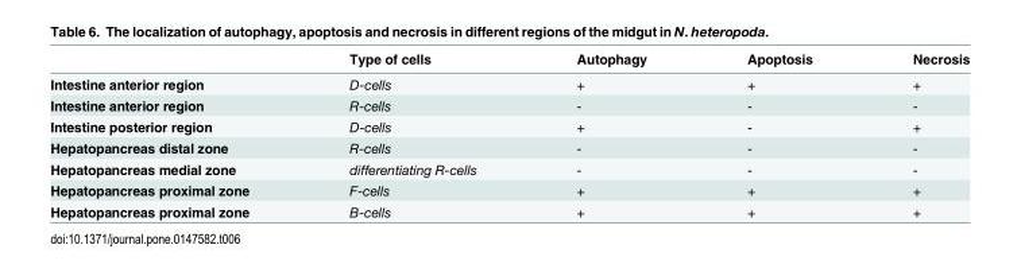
<table><thead><tr><td></td><td>Type of cells</td><td>Autophagy</td><td>Apoptosis</td><td>Necrosis</td></tr></thead><tbody><tr><td>Intestine anterior region</td><td>D-cells</td><td>+</td><td>+</td><td>+</td></tr><tr><td>Intestine anterior region</td><td>R-cells</td><td>-</td><td>-</td><td>-</td></tr><tr><td>Intestine posterior region</td><td>D-cells</td><td>+</td><td>-</td><td>+</td></tr><tr><td>Hepatopancreas distal zone</td><td>R-cells</td><td>-</td><td>-</td><td>-</td></tr><tr><td>Hepatopancreas medial zone</td><td>differentiating R-cells</td><td>-</td><td>-</td><td>-</td></tr><tr><td>Hepatopancreas proximal zone</td><td>F-cells</td><td>+</td><td>+</td><td>+</td></tr><tr><td>Hepatopancreas proximal zone</td><td>B-cells</td><td>+</td><td>+</td><td>+</td></tr></tbody></table>